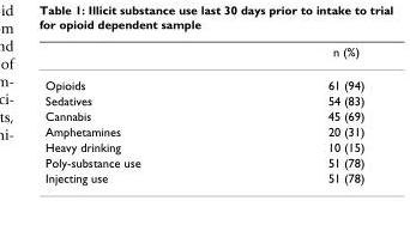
<table><thead><tr><td></td><td>n (%)</td></tr></thead><tbody><tr><td>Opioids</td><td>61 (94)</td></tr><tr><td>Sedatives</td><td>54 (83)</td></tr><tr><td>Cannabis</td><td>45 (69)</td></tr><tr><td>Amphetamines</td><td>20 (31)</td></tr><tr><td>Heavy drinking</td><td>10 (15)</td></tr><tr><td>Poly-substance use</td><td>51 (78)</td></tr><tr><td>Injecting use</td><td>51 (78)</td></tr></tbody></table>